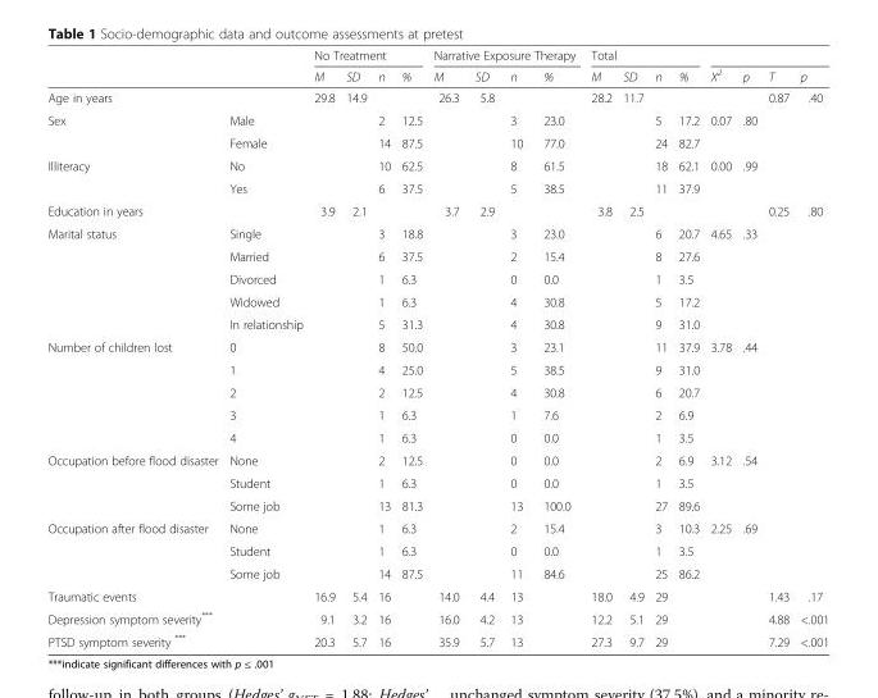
<table><thead><tr><td rowspan="2"></td><td rowspan="2"></td><td colspan="4">No Treatment</td><td colspan="4">Narrative Exposure Therapy</td><td colspan="4">Total</td><td rowspan="2">X<sup>2</sup></td><td rowspan="2">p</td><td rowspan="2">T</td><td rowspan="2">p</td></tr><tr><td>M</td><td>SD</td><td>n</td><td>%</td><td>M</td><td>SD</td><td>n</td><td>%</td><td>M</td><td>SD</td><td>n</td><td>%</td></tr></thead><tbody><tr><td colspan="2">Age in years</td><td>29.8</td><td>14.9</td><td></td><td></td><td>26.3</td><td>5.8</td><td></td><td></td><td>28.2</td><td>11.7</td><td></td><td></td><td></td><td></td><td>0.87</td><td>.40</td></tr><tr><td rowspan="2">Sex</td><td>Male</td><td></td><td></td><td>2</td><td>12.5</td><td></td><td></td><td>3</td><td>23.0</td><td></td><td></td><td>5</td><td>17.2</td><td rowspan="2">0.07</td><td rowspan="2">.80</td><td></td><td></td></tr><tr><td>Female</td><td></td><td></td><td>14</td><td>87.5</td><td></td><td></td><td>10</td><td>77.0</td><td></td><td></td><td>24</td><td>82.7</td><td></td><td></td></tr><tr><td rowspan="2">Illiteracy</td><td>No</td><td></td><td></td><td>10</td><td>62.5</td><td></td><td></td><td>8</td><td>61.5</td><td></td><td></td><td>18</td><td>62.1</td><td rowspan="2">0.00</td><td rowspan="2">.99</td><td></td><td></td></tr><tr><td>Yes</td><td></td><td></td><td>6</td><td>37.5</td><td></td><td></td><td>5</td><td>38.5</td><td></td><td></td><td>11</td><td>37.9</td><td></td><td></td></tr><tr><td colspan="2">Education in years</td><td>3.9</td><td>2.1</td><td></td><td></td><td>3.7</td><td>2.9</td><td></td><td></td><td>3.8</td><td>2.5</td><td></td><td></td><td></td><td></td><td>0.25</td><td>.80</td></tr><tr><td rowspan="5">Marital status</td><td>Single</td><td></td><td></td><td>3</td><td>18.8</td><td></td><td></td><td>3</td><td>23.0</td><td></td><td></td><td>6</td><td>20.7</td><td rowspan="5">4.65</td><td rowspan="5">.33</td><td></td><td></td></tr><tr><td>Married</td><td></td><td></td><td>6</td><td>37.5</td><td></td><td></td><td>2</td><td>15.4</td><td></td><td></td><td>8</td><td>27.6</td><td></td><td></td></tr><tr><td>Divorced</td><td></td><td></td><td>1</td><td>6.3</td><td></td><td></td><td>0</td><td>0.0</td><td></td><td></td><td>1</td><td>3.5</td><td></td><td></td></tr><tr><td>Widowed</td><td></td><td></td><td>1</td><td>6.3</td><td></td><td></td><td>4</td><td>30.8</td><td></td><td></td><td>5</td><td>17.2</td><td></td><td></td></tr><tr><td>In relationship</td><td></td><td></td><td>5</td><td>31.3</td><td></td><td></td><td>4</td><td>30.8</td><td></td><td></td><td>9</td><td>31.0</td><td></td><td></td></tr><tr><td rowspan="5">Number of children lost</td><td>0</td><td></td><td></td><td>8</td><td>50.0</td><td></td><td></td><td>3</td><td>23.1</td><td></td><td></td><td>11</td><td>37.9</td><td rowspan="5">3.78</td><td rowspan="5">.44</td><td></td><td></td></tr><tr><td>1</td><td></td><td></td><td>4</td><td>25.0</td><td></td><td></td><td>5</td><td>38.5</td><td></td><td></td><td>9</td><td>31.0</td><td></td><td></td></tr><tr><td>2</td><td></td><td></td><td>2</td><td>12.5</td><td></td><td></td><td>4</td><td>30.8</td><td></td><td></td><td>6</td><td>20.7</td><td></td><td></td></tr><tr><td>3</td><td></td><td></td><td>1</td><td>6.3</td><td></td><td></td><td>1</td><td>7.6</td><td></td><td></td><td>2</td><td>6.9</td><td></td><td></td></tr><tr><td>4</td><td></td><td></td><td>1</td><td>6.3</td><td></td><td></td><td>0</td><td>0.0</td><td></td><td></td><td>1</td><td>3.5</td><td></td><td></td></tr><tr><td rowspan="3">Occupation before flood disaster</td><td>None</td><td></td><td></td><td>2</td><td>12.5</td><td></td><td></td><td>0</td><td>0.0</td><td></td><td></td><td>2</td><td>6.9</td><td rowspan="3">3.12</td><td rowspan="3">.54</td><td></td><td></td></tr><tr><td>Student</td><td></td><td></td><td>1</td><td>6.3</td><td></td><td></td><td>0</td><td>0.0</td><td></td><td></td><td>1</td><td>3.5</td><td></td><td></td></tr><tr><td>Some job</td><td></td><td></td><td>13</td><td>81.3</td><td></td><td></td><td>13</td><td>100.0</td><td></td><td></td><td>27</td><td>89.6</td><td></td><td></td></tr><tr><td rowspan="3">Occupation after flood disaster</td><td>None</td><td></td><td></td><td>1</td><td>6.3</td><td></td><td></td><td>2</td><td>15.4</td><td></td><td></td><td>3</td><td>10.3</td><td rowspan="3">2.25</td><td rowspan="3">.69</td><td></td><td></td></tr><tr><td>Student</td><td></td><td></td><td>1</td><td>6.3</td><td></td><td></td><td>0</td><td>0.0</td><td></td><td></td><td>1</td><td>3.5</td><td></td><td></td></tr><tr><td>Some job</td><td></td><td></td><td>14</td><td>87.5</td><td></td><td></td><td>11</td><td>84.6</td><td></td><td></td><td>25</td><td>86.2</td><td></td><td></td></tr><tr><td>Traumatic events</td><td></td><td>16.9</td><td>5.4</td><td>16</td><td></td><td>14.0</td><td>4.4</td><td>13</td><td></td><td>18.0</td><td>4.9</td><td>29</td><td></td><td></td><td></td><td>1.43</td><td>.17</td></tr><tr><td>Depression symptom severity***</td><td></td><td>9.1</td><td>3.2</td><td>16</td><td></td><td>16.0</td><td>4.2</td><td>13</td><td></td><td>12.2</td><td>5.1</td><td>29</td><td></td><td></td><td></td><td>4.88</td><td>&lt;.001</td></tr><tr><td>PTSD symptom severity ***</td><td></td><td>20.3</td><td>5.7</td><td>16</td><td></td><td>35.9</td><td>5.7</td><td>13</td><td></td><td>27.3</td><td>9.7</td><td>29</td><td></td><td></td><td></td><td>7.29</td><td>&lt;.001</td></tr></tbody></table>